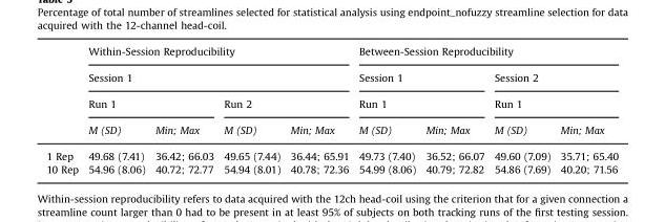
<table><thead><tr><td rowspan="4"></td><td rowspan="2" colspan="4">Within-Session Reproducibility Session 1</td><td colspan="4">Between-Session Reproducibility</td></tr><tr><td rowspan="2" colspan="2">Session 1 Run 1</td><td rowspan="2" colspan="2">Session 2 Run 1</td></tr><tr><td colspan="2">Run 1</td><td colspan="2">Run 2</td></tr><tr><td>M (SD)</td><td>Min; Max</td><td>M (SD)</td><td>Min; Max</td><td>M (SD)</td><td>Min; Max</td><td>M (SD)</td><td>Min; Max</td></tr></thead><tbody><tr><td>1 Rep</td><td>49.68 (7.41)</td><td>36.42; 66.03</td><td>49.65 (7.44)</td><td>36.44; 65.91</td><td>49.73 (7.40)</td><td>36.52; 66.07</td><td>49.60 (7.09)</td><td>35.71; 65.40</td></tr><tr><td>10 Rep</td><td>54.96 (8.06)</td><td>40.72; 72.77</td><td>54.94 (8.01)</td><td>40.78; 72.36</td><td>54.99 (8.06)</td><td>40.79; 72.82</td><td>54.86 (7.69)</td><td>40.20; 71.56</td></tr></tbody></table>